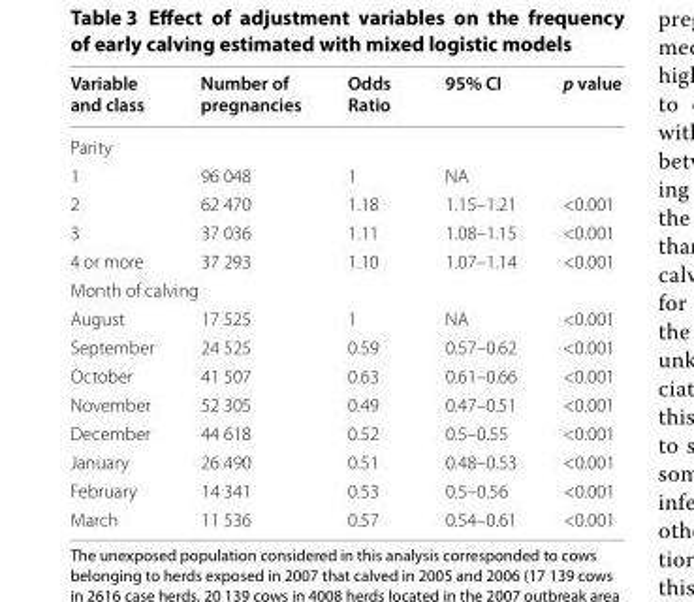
<table><thead><tr><td>Variable and class</td><td>Number of pregnancies</td><td>Odds Ratio</td><td>95% CI</td><td>p value</td></tr></thead><tbody><tr><td colspan="5">Parity</td></tr><tr><td>1</td><td>96 048</td><td>1</td><td>NA</td><td></td></tr><tr><td>2</td><td>62 470</td><td>1.18</td><td>1.15–1.21</td><td>&lt;0.001</td></tr><tr><td>3</td><td>37 036</td><td>1.11</td><td>1.08–1.15</td><td>&lt;0.001</td></tr><tr><td>4 or more</td><td>37 293</td><td>1.10</td><td>1.07–1.14</td><td>&lt;0.001</td></tr><tr><td colspan="5">Month of calving</td></tr><tr><td>August</td><td>17 525</td><td>1</td><td>NA</td><td>&lt;0.001</td></tr><tr><td>September</td><td>24 525</td><td>0.59</td><td>0.57–0.62</td><td>&lt;0.001</td></tr><tr><td>October</td><td>41 507</td><td>0.63</td><td>0.61–0.66</td><td>&lt;0.001</td></tr><tr><td>November</td><td>52 305</td><td>0.49</td><td>0.47–0.51</td><td>&lt;0.001</td></tr><tr><td>December</td><td>44 618</td><td>0.52</td><td>0.5–0.55</td><td>&lt;0.001</td></tr><tr><td>January</td><td>26 490</td><td>0.51</td><td>0.48–0.53</td><td>&lt;0.001</td></tr><tr><td>February</td><td>14 341</td><td>0.53</td><td>0.5–0.56</td><td>&lt;0.001</td></tr><tr><td>March</td><td>11 536</td><td>0.57</td><td>0.54–0.61</td><td>&lt;0.001</td></tr></tbody></table>